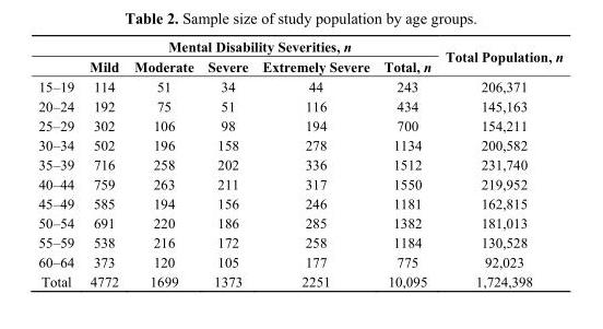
<table><thead><tr><td rowspan="2"></td><td colspan="5">Mental Disability Severities, n</td><td rowspan="2">Total Population, n</td></tr><tr><td>Mild</td><td>Moderate</td><td>Severe</td><td>Extremely Severe</td><td>Total, n</td></tr></thead><tbody><tr><td>15–19</td><td>114</td><td>51</td><td>34</td><td>44</td><td>243</td><td>206,371</td></tr><tr><td>20–24</td><td>192</td><td>75</td><td>51</td><td>116</td><td>434</td><td>145,163</td></tr><tr><td>25–29</td><td>302</td><td>106</td><td>98</td><td>194</td><td>700</td><td>154,211</td></tr><tr><td>30–34</td><td>502</td><td>196</td><td>158</td><td>278</td><td>1134</td><td>200,582</td></tr><tr><td>35–39</td><td>716</td><td>258</td><td>202</td><td>336</td><td>1512</td><td>231,740</td></tr><tr><td>40–44</td><td>759</td><td>263</td><td>211</td><td>317</td><td>1550</td><td>219,952</td></tr><tr><td>45–49</td><td>585</td><td>194</td><td>156</td><td>246</td><td>1181</td><td>162,815</td></tr><tr><td>50–54</td><td>691</td><td>220</td><td>186</td><td>285</td><td>1382</td><td>181,013</td></tr><tr><td>55–59</td><td>538</td><td>216</td><td>172</td><td>258</td><td>1184</td><td>130,528</td></tr><tr><td>60–64</td><td>373</td><td>120</td><td>105</td><td>177</td><td>775</td><td>92,023</td></tr><tr><td>Total</td><td>4772</td><td>1699</td><td>1373</td><td>2251</td><td>10,095</td><td>1,724,398</td></tr></tbody></table>